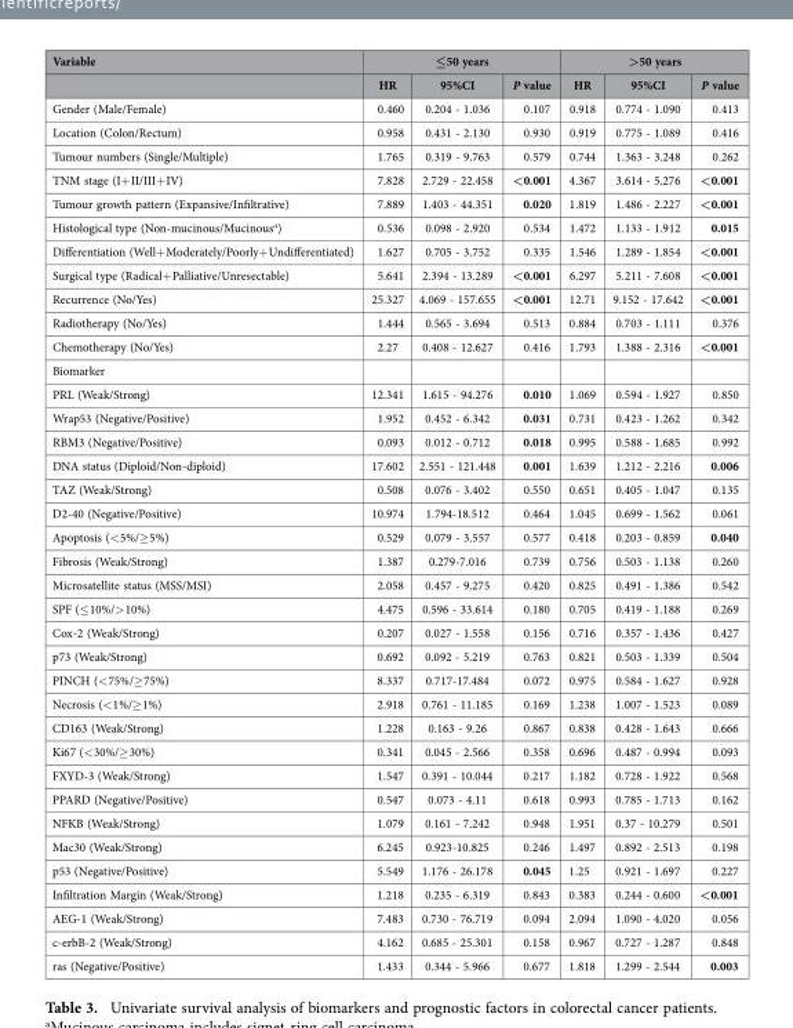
<table><thead><tr><td rowspan="2">Variable</td><td colspan="3">≤50 years</td><td colspan="3">&gt;50 years</td></tr><tr><td>HR</td><td>95%CI</td><td>P value</td><td>HR</td><td>95%CI</td><td>P value</td></tr></thead><tbody><tr><td>Gender (Male/Female)</td><td>0.460</td><td>0.204 - 1.036</td><td>0.107</td><td>0.918</td><td>0.774 - 1.090</td><td>0.413</td></tr><tr><td>Location (Colon/Rectum)</td><td>0.958</td><td>0.431 - 2.130</td><td>0.930</td><td>0.919</td><td>0.775 - 1.089</td><td>0.416</td></tr><tr><td>Tumour numbers (Single/Multiple)</td><td>1.765</td><td>0.319 - 9.763</td><td>0.579</td><td>0.744</td><td>1.363 - 3.248</td><td>0.262</td></tr><tr><td>TNM stage (I+ II/III+ IV)</td><td>7.828</td><td>2.729 - 22.458</td><td>&lt;0.001</td><td>4.367</td><td>3.614 - 5.276</td><td>&lt;0.001</td></tr><tr><td>Tumour growth pattern (Expansive/Infiltrative)</td><td>7.889</td><td>1.403 - 44.351</td><td>0.020</td><td>1.819</td><td>1.486 - 2.227</td><td>&lt;0.001</td></tr><tr><td>Histological type (Non-mucinous/Mucinous<sup>a</sup>)</td><td>0.536</td><td>0.098 - 2.920</td><td>0.534</td><td>1.472</td><td>1.133 - 1.912</td><td>0.015</td></tr><tr><td>Differentiation (Well+ Moderately/Poorly+ Undifferentiated)</td><td>1.627</td><td>0.705 - 3.752</td><td>0.335</td><td>1.546</td><td>1.289 - 1.854</td><td>&lt;0.001</td></tr><tr><td>Surgical type (Radical+ Palliative/Unresectable)</td><td>5.641</td><td>2.394 - 13.289</td><td>&lt;0.001</td><td>6.297</td><td>5.211 - 7.608</td><td>&lt;0.001</td></tr><tr><td>Recurrence (No/Yes)</td><td>25.327</td><td>4.069 - 157.655</td><td>&lt;0.001</td><td>12.71</td><td>9.152 - 17.642</td><td>&lt;0.001</td></tr><tr><td>Radiotherapy (No/Yes)</td><td>1.444</td><td>0.565 - 3.694</td><td>0.513</td><td>0.884</td><td>0.703 - 1.111</td><td>0.376</td></tr><tr><td>Chemotherapy (No/Yes)</td><td>2.27</td><td>0.408 - 12.627</td><td>0.416</td><td>1.793</td><td>1.388 - 2.316</td><td>&lt;0.001</td></tr><tr><td colspan="7">Biomarker</td></tr><tr><td>PRL (Weak/Strong)</td><td>12.341</td><td>1.615 - 94.276</td><td>0.010</td><td>1.069</td><td>0.594 - 1.927</td><td>0.850</td></tr><tr><td>Wrap53 (Negative/Positive)</td><td>1.952</td><td>0.452 - 6.342</td><td>0.031</td><td>0.731</td><td>0.423 - 1.262</td><td>0.342</td></tr><tr><td>RBM3 (Negative/Positive)</td><td>0.093</td><td>0.012 - 0.712</td><td>0.018</td><td>0.995</td><td>0.588 - 1.685</td><td>0.992</td></tr><tr><td>DNA status (Diploid/Non-diploid)</td><td>17.602</td><td>2.551 - 121.448</td><td>0.001</td><td>1.639</td><td>1.212 - 2.216</td><td>0.006</td></tr><tr><td>TAZ (Weak/Strong)</td><td>0.508</td><td>0.076 - 3.402</td><td>0.550</td><td>0.651</td><td>0.405 - 1.047</td><td>0.135</td></tr><tr><td>D2-40 (Negative/Positive)</td><td>10.974</td><td>1.794-18.512</td><td>0.464</td><td>1.045</td><td>0.699 - 1.562</td><td>0.061</td></tr><tr><td>Apoptosis (&lt; 5%/≥ 5%)</td><td>0.529</td><td>0.079 - 3.557</td><td>0.577</td><td>0.418</td><td>0.203 - 0.859</td><td>0.040</td></tr><tr><td>Fibrosis (Weak/Strong)</td><td>1.387</td><td>0.279-7.016</td><td>0.739</td><td>0.756</td><td>0.503 - 1.138</td><td>0.260</td></tr><tr><td>Microsatellite status (MSS/MSI)</td><td>2.058</td><td>0.457 - 9.275</td><td>0.420</td><td>0.825</td><td>0.491 - 1.386</td><td>0.542</td></tr><tr><td>SPF (≤ 10%/&gt; 10%)</td><td>4.475</td><td>0.596 - 33.614</td><td>0.180</td><td>0.705</td><td>0.419 - 1.188</td><td>0.269</td></tr><tr><td>Cox-2 (Weak/Strong)</td><td>0.207</td><td>0.027 - 1.558</td><td>0.156</td><td>0.716</td><td>0.357 - 1.436</td><td>0.427</td></tr><tr><td>p73 (Weak/Strong)</td><td>0.692</td><td>0.092 - 5.219</td><td>0.763</td><td>0.821</td><td>0.503 - 1.339</td><td>0.504</td></tr><tr><td>PINCH (&lt; 75%/≥ 75%)</td><td>8.337</td><td>0.717-17.484</td><td>0.072</td><td>0.975</td><td>0.584 - 1.627</td><td>0.928</td></tr><tr><td>Necrosis (&lt; 1%/≥ 1%)</td><td>2.918</td><td>0.761 - 11.185</td><td>0.169</td><td>1.238</td><td>1.007 - 1.523</td><td>0.089</td></tr><tr><td>CD163 (Weak/Strong)</td><td>1.228</td><td>0.163 - 9.26</td><td>0.867</td><td>0.838</td><td>0.428 - 1.643</td><td>0.666</td></tr><tr><td>Ki67 (&lt; 30%/≥ 30%)</td><td>0.341</td><td>0.045 - 2.566</td><td>0.358</td><td>0.696</td><td>0.487 - 0.994</td><td>0.093</td></tr><tr><td>FXYD-3 (Weak/Strong)</td><td>1.547</td><td>0.391 - 10.044</td><td>0.217</td><td>1.182</td><td>0.728 - 1.922</td><td>0.568</td></tr><tr><td>PPARD (Negative/Positive)</td><td>0.547</td><td>0.073 - 4.11</td><td>0.618</td><td>0.993</td><td>0.785 - 1.713</td><td>0.162</td></tr><tr><td>NFKB (Weak/Strong)</td><td>1.079</td><td>0.161 - 7.242</td><td>0.948</td><td>1.951</td><td>0.37 - 10.279</td><td>0.501</td></tr><tr><td>Mac30 (Weak/Strong)</td><td>6.245</td><td>0.923-10.825</td><td>0.246</td><td>1.497</td><td>0.892 - 2.513</td><td>0.198</td></tr><tr><td>p53 (Negative/Positive)</td><td>5.549</td><td>1.176 - 26.178</td><td>0.045</td><td>1.25</td><td>0.921 - 1.697</td><td>0.227</td></tr><tr><td>Infiltration Margin (Weak/Strong)</td><td>1.218</td><td>0.235 - 6.319</td><td>0.843</td><td>0.383</td><td>0.244 - 0.600</td><td>&lt;0.001</td></tr><tr><td>AEG-1 (Weak/Strong)</td><td>7.483</td><td>0.730 - 76.719</td><td>0.094</td><td>2.094</td><td>1.090 - 4.020</td><td>0.056</td></tr><tr><td>c-erbB-2 (Weak/Strong)</td><td>4.162</td><td>0.685 - 25.301</td><td>0.158</td><td>0.967</td><td>0.727 - 1.287</td><td>0.848</td></tr><tr><td>ras (Negative/Positive)</td><td>1.433</td><td>0.344 - 5.966</td><td>0.677</td><td>1.818</td><td>1.299 - 2.544</td><td>0.003</td></tr></tbody></table>